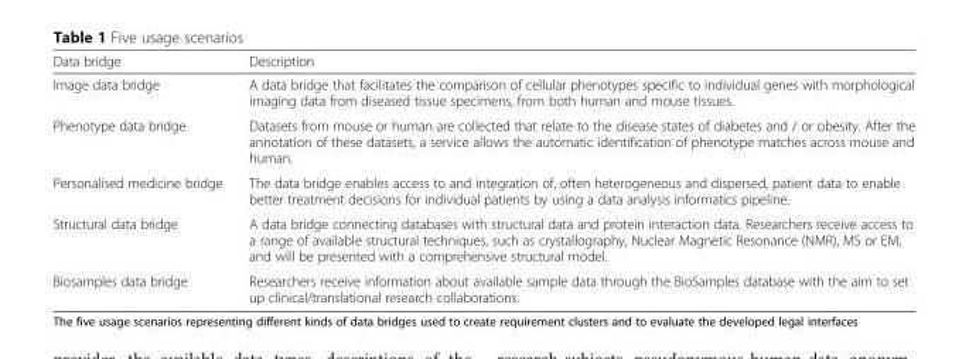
<table><thead><tr><td>Data bridge</td><td>Description</td></tr></thead><tbody><tr><td>Image data bridge</td><td>A data bridge that facilitates the comparison of cellular phenotypes specific to individual genes with morphological imaging data from diseased tissue specimens, from both human and mouse tissues.</td></tr><tr><td>Phenotype data bridge</td><td>Datasets from mouse or human are collected that relate to the disease states of diabetes and / or obesity. After the annotation of these datasets, a service allows the automatic identification of phenotype matches across mouse and human.</td></tr><tr><td>Personalised medicine bridge</td><td>The data bridge enables access to and integration of, often heterogeneous and dispersed, patient data to enable better treatment decisions for individual patients by using a data analysis informatics pipeline.</td></tr><tr><td>Structural data bridge</td><td>A data bridge connecting databases with structural data and protein interaction data. Researchers receive access to a range of available structural techniques, such as crystallography, Nuclear Magnetic Resonance (NMR), MS or EM, and will be presented with a comprehensive structural model.</td></tr><tr><td>Biosamples data bridge</td><td>Researchers receive information about available sample data through the BioSamples database with the aim to set up clinical/translational research collaborations.</td></tr></tbody></table>